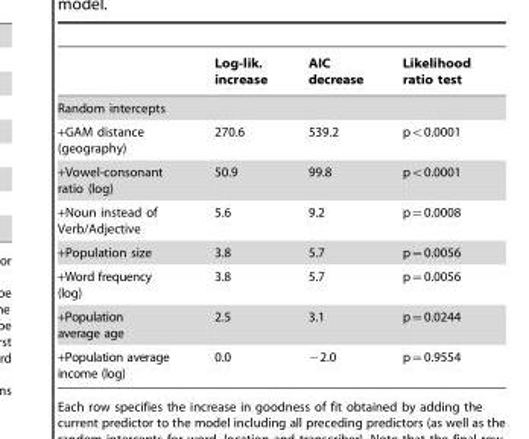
<table><thead><tr><td></td><td>Log-lik. increase</td><td>AIC decrease</td><td>Likelihood ratio test</td></tr></thead><tbody><tr><td colspan="4">Random intercepts</td></tr><tr><td>+GAM distance (geography)</td><td>270.6</td><td>539.2</td><td>pv0.0001</td></tr><tr><td>+Vowel-consonant ratio (log)</td><td>50.9</td><td>99.8</td><td>pv0.0001</td></tr><tr><td>+Noun instead of Verb/Adjective</td><td>5.6</td><td>9.2</td><td>p~0.0008</td></tr><tr><td>+Population size</td><td>3.8</td><td>5.7</td><td>p~0.0056</td></tr><tr><td>+Word frequency (log)</td><td>3.8</td><td>5.7</td><td>p~0.0056</td></tr><tr><td>+Population average age</td><td>2.5</td><td>3.1</td><td>p~0.0244</td></tr><tr><td>+Population average income (log)</td><td>0.0</td><td>−2.0</td><td>p~0.9554</td></tr></tbody></table>